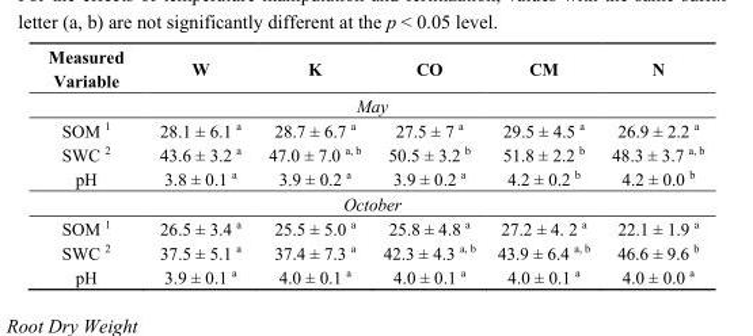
<table><thead><tr><td>Measured Variable</td><td>W</td><td>K</td><td>CO</td><td>CM</td><td>N</td></tr></thead><tbody><tr><td colspan="6">May</td></tr><tr><td>SOM <sup>1</sup></td><td>28.1 ± 6.1 <sup>a</sup></td><td>28.7 ± 6.7 <sup>a</sup></td><td>27.5 ± 7 <sup>a</sup></td><td>29.5 ± 4.5 <sup>a</sup></td><td>26.9 ± 2.2 <sup>a</sup></td></tr><tr><td>SWC <sup>2</sup></td><td>43.6 ± 3.2 <sup>a</sup></td><td>47.0 ± 7.0 <sup>a, b</sup></td><td>50.5 ± 3.2 <sup>b</sup></td><td>51.8 ± 2.2 <sup>b</sup></td><td>48.3 ± 3.7 <sup>a, b</sup></td></tr><tr><td>pH</td><td>3.8 ± 0.1 <sup>a</sup></td><td>3.9 ± 0.2 <sup>a</sup></td><td>3.9 ± 0.2 <sup>a</sup></td><td>4.2 ± 0.2 <sup>b</sup></td><td>4.2 ± 0.0 <sup>b</sup></td></tr><tr><td colspan="6">October</td></tr><tr><td>SOM <sup>1</sup></td><td>26.5 ± 3.4 <sup>a</sup></td><td>25.5 ± 5.0 <sup>a</sup></td><td>25.8 ± 4.8 <sup>a</sup></td><td>27.2 ± 4. 2 <sup>a</sup></td><td>22.1 ± 1.9 <sup>a</sup></td></tr><tr><td>SWC <sup>2</sup></td><td>37.5 ± 5.1 <sup>a</sup></td><td>37.4 ± 7.3 <sup>a</sup></td><td>42.3 ± 4.3 <sup>a, b</sup></td><td>43.9 ± 6.4 <sup>a, b</sup></td><td>46.6 ± 9.6 <sup>b</sup></td></tr><tr><td>pH</td><td>3.9 ± 0.1 <sup>a</sup></td><td>4.0 ± 0.1 <sup>a</sup></td><td>4.0 ± 0.1 <sup>a</sup></td><td>4.0 ± 0.1 <sup>a</sup></td><td>4.0 ± 0.0 <sup>a</sup></td></tr></tbody></table>